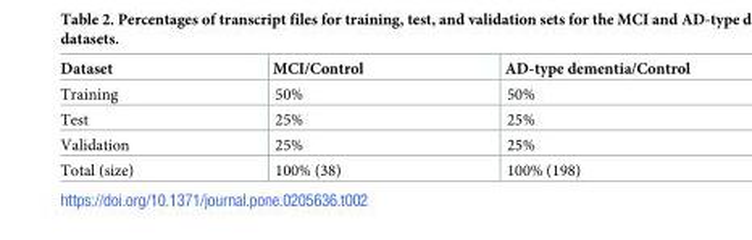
<table><thead><tr><td>Dataset</td><td>MCI/Control</td><td>AD-type dementia/Control</td></tr></thead><tbody><tr><td>Training</td><td>50%</td><td>50%</td></tr><tr><td>Test</td><td>25%</td><td>25%</td></tr><tr><td>Validation</td><td>25%</td><td>25%</td></tr><tr><td>Total (size)</td><td>100% (38)</td><td>100% (198)</td></tr></tbody></table>